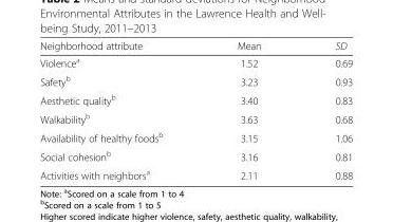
<table><thead><tr><td>Neighborhood attribute</td><td>Mean</td><td>SD</td></tr></thead><tbody><tr><td>Violence<sup>a</sup></td><td>1.52</td><td>0.69</td></tr><tr><td>Safety<sup>b</sup></td><td>3.23</td><td>0.93</td></tr><tr><td>Aesthetic quality<sup>b</sup></td><td>3.40</td><td>0.83</td></tr><tr><td>Walkability<sup>b</sup></td><td>3.63</td><td>0.68</td></tr><tr><td>Availability of healthy foods<sup>b</sup></td><td>3.15</td><td>1.06</td></tr><tr><td>Social cohesion<sup>b</sup></td><td>3.16</td><td>0.81</td></tr><tr><td>Activities with neighbors<sup>a</sup></td><td>2.11</td><td>0.88</td></tr></tbody></table>